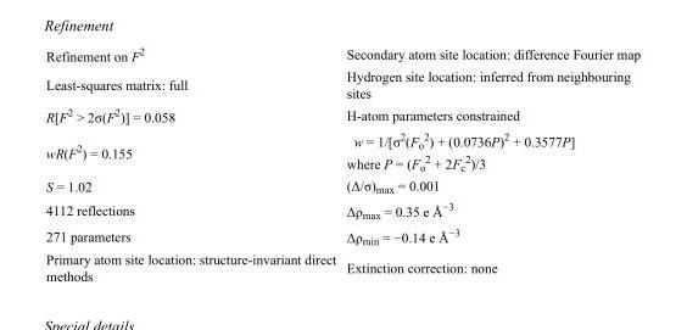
<table><tbody><tr><td>Refinement on F<sup>2</sup></td><td>Secondary atom site location: difference Fourier map</td></tr><tr><td>Least-squares matrix: full</td><td>Hydrogen site location: inferred from neighbouring sites</td></tr><tr><td>R[F<sup>2</sup> &gt; 2σ(F<sup>2</sup>)] = 0.058</td><td>H-atom parameters constrained</td></tr><tr><td>wR(F<sup>2</sup>) = 0.155</td><td>w = 1/[σ<sup>2</sup>(F<sub>o</sub> <sup>2</sup>) + (0.0736P)<sup>2</sup> + 0.3577P] where P = (F<sub>o</sub> <sup>2</sup> + 2F<sub>c</sub> <sup>2</sup>)/3</td></tr><tr><td>S = 1.02</td><td>(Δ/σ)<sub>max</sub> = 0.001</td></tr><tr><td>4112 reflections</td><td>Δρ<sub>max</sub> = 0.35 e Å<sup>−3</sup></td></tr><tr><td>271 parameters</td><td>Δρ<sub>min</sub> = −0.14 e Å<sup>−3</sup></td></tr><tr><td>Primary atom site location: structure-invariant direct methods</td><td>Extinction correction: none</td></tr></tbody></table>